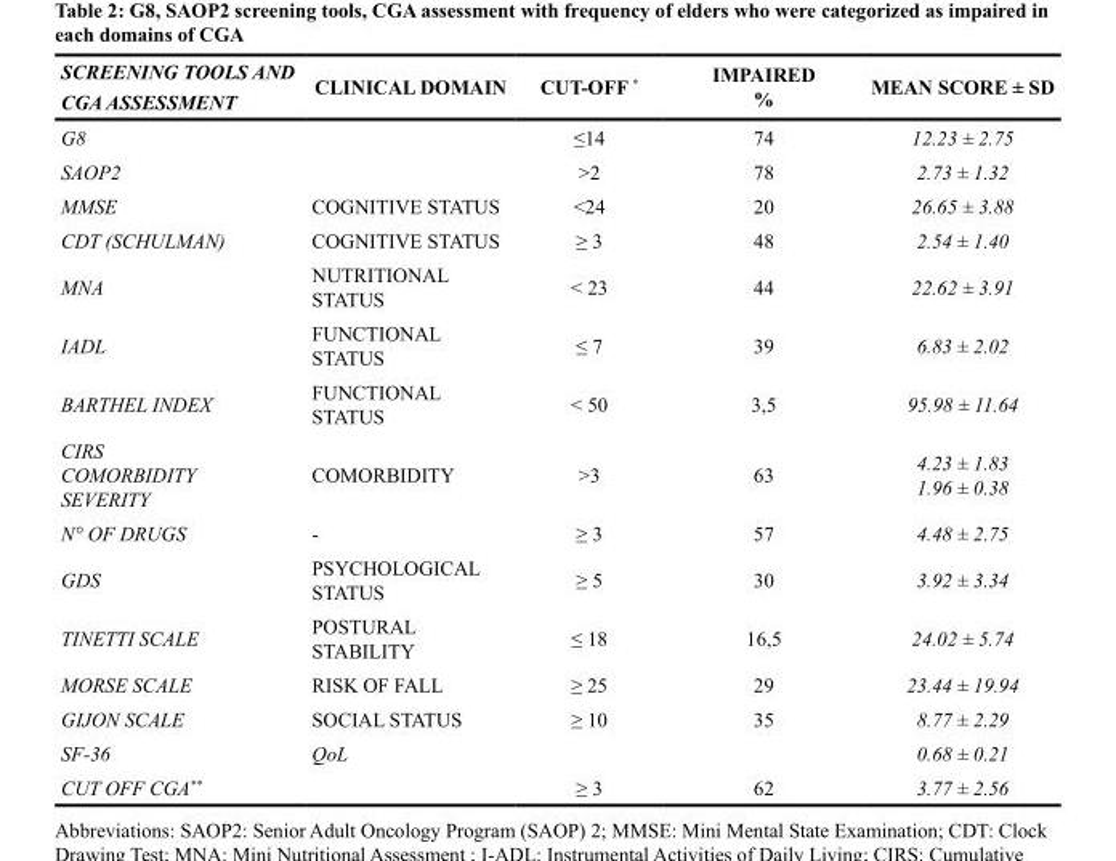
<table><thead><tr><td>SCREENING TOOLS AND CGA ASSESSMENT</td><td>CLINICAL DOMAIN</td><td>CUT-OFF *</td><td>IMPAIRED %</td><td>MEAN SCORE ± SD</td></tr></thead><tbody><tr><td>G8</td><td></td><td>≤14</td><td>74</td><td>12.23 ± 2.75</td></tr><tr><td>SAOP2</td><td></td><td>&gt;2</td><td>78</td><td>2.73 ± 1.32</td></tr><tr><td>MMSE</td><td>COGNITIVE STATUS</td><td>&lt;24</td><td>20</td><td>26.65 ± 3.88</td></tr><tr><td>CDT (SCHULMAN)</td><td>COGNITIVE STATUS</td><td>≥ 3</td><td>48</td><td>2.54 ± 1.40</td></tr><tr><td>MNA</td><td>NUTRITIONAL STATUS</td><td>&lt; 23</td><td>44</td><td>22.62 ± 3.91</td></tr><tr><td>IADL</td><td>FUNCTIONAL STATUS</td><td>≤ 7</td><td>39</td><td>6.83 ± 2.02</td></tr><tr><td>BARTHEL INDEX</td><td>FUNCTIONAL STATUS</td><td>&lt; 50</td><td>3,5</td><td>95.98 ± 11.64</td></tr><tr><td>CIRS COMORBIDITY SEVERITY</td><td>COMORBIDITY</td><td>&gt;3</td><td>63</td><td>4.23 ± 1.83 1.96 ± 0.38</td></tr><tr><td>N° OF DRUGS</td><td>-</td><td>≥ 3</td><td>57</td><td>4.48 ± 2.75</td></tr><tr><td>GDS</td><td>PSYCHOLOGICAL STATUS</td><td>≥ 5</td><td>30</td><td>3.92 ± 3.34</td></tr><tr><td>TINETTI SCALE</td><td>POSTURAL STABILITY</td><td>≤ 18</td><td>16,5</td><td>24.02 ± 5.74</td></tr><tr><td>MORSE SCALE</td><td>RISK OF FALL</td><td>≥ 25</td><td>29</td><td>23.44 ± 19.94</td></tr><tr><td>GIJON SCALE</td><td>SOCIAL STATUS</td><td>≥ 10</td><td>35</td><td>8.77 ± 2.29</td></tr><tr><td>SF-36</td><td>QoL</td><td></td><td></td><td>0.68 ± 0.21</td></tr><tr><td>CUT OFF CGA**</td><td></td><td>≥ 3</td><td>62</td><td>3.77 ± 2.56</td></tr></tbody></table>